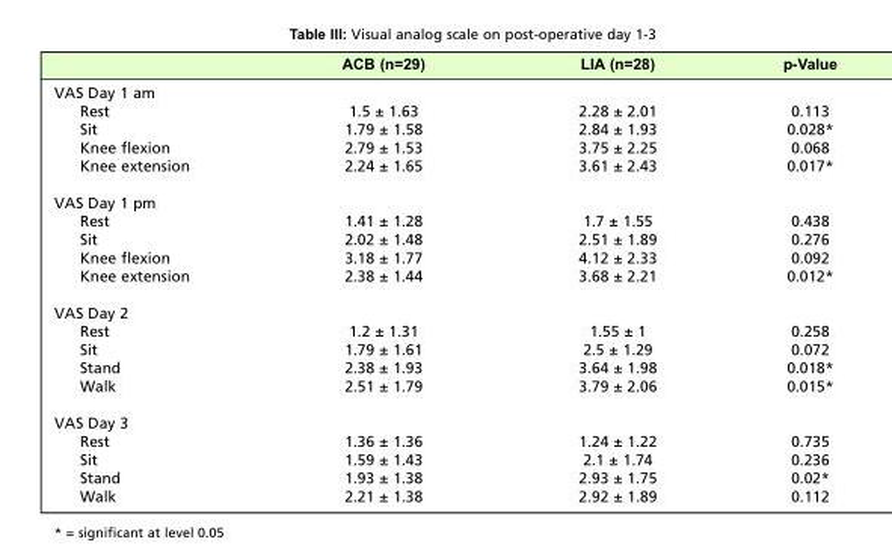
<table><thead><tr><td></td><td>ACB (n=29)</td><td>LIA (n=28)</td><td>p-Value</td></tr></thead><tbody><tr><td colspan="4">VAS Day 1 am</td></tr><tr><td>Rest</td><td>1.5 ± 1.63</td><td>2.28 ± 2.01</td><td>0.113</td></tr><tr><td>Sit</td><td>1.79 ± 1.58</td><td>2.84 ± 1.93</td><td>0.028*</td></tr><tr><td>Knee flexion</td><td>2.79 ± 1.53</td><td>3.75 ± 2.25</td><td>0.068</td></tr><tr><td>Knee extension</td><td>2.24 ± 1.65</td><td>3.61 ± 2.43</td><td>0.017*</td></tr><tr><td colspan="4">VAS Day 1 pm</td></tr><tr><td>Rest</td><td>1.41 ± 1.28</td><td>1.7 ± 1.55</td><td>0.438</td></tr><tr><td>Sit</td><td>2.02 ± 1.48</td><td>2.51 ± 1.89</td><td>0.276</td></tr><tr><td>Knee flexion</td><td>3.18 ± 1.77</td><td>4.12 ± 2.33</td><td>0.092</td></tr><tr><td>Knee extension</td><td>2.38 ± 1.44</td><td>3.68 ± 2.21</td><td>0.012*</td></tr><tr><td colspan="4">VAS Day 2</td></tr><tr><td>Rest</td><td>1.2 ± 1.31</td><td>1.55 ± 1</td><td>0.258</td></tr><tr><td>Sit</td><td>1.79 ± 1.61</td><td>2.5 ± 1.29</td><td>0.072</td></tr><tr><td>Stand</td><td>2.38 ± 1.93</td><td>3.64 ± 1.98</td><td>0.018*</td></tr><tr><td>Walk</td><td>2.51 ± 1.79</td><td>3.79 ± 2.06</td><td>0.015*</td></tr><tr><td colspan="4">VAS Day 3</td></tr><tr><td>Rest</td><td>1.36 ± 1.36</td><td>1.24 ± 1.22</td><td>0.735</td></tr><tr><td>Sit</td><td>1.59 ± 1.43</td><td>2.1 ± 1.74</td><td>0.236</td></tr><tr><td>Stand</td><td>1.93 ± 1.38</td><td>2.93 ± 1.75</td><td>0.02*</td></tr><tr><td>Walk</td><td>2.21 ± 1.38</td><td>2.92 ± 1.89</td><td>0.112</td></tr></tbody></table>